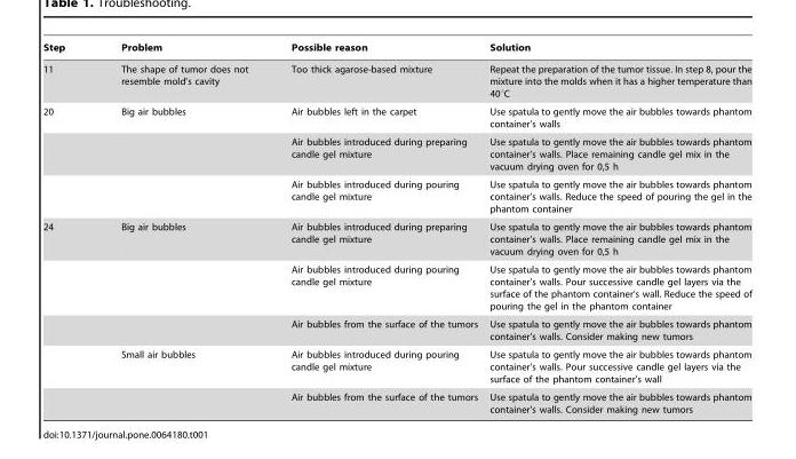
<table><thead><tr><td>Step</td><td>Problem</td><td>Possible reason</td><td>Solution</td></tr></thead><tbody><tr><td>11</td><td>The shape of tumor does not resemble mold’s cavity</td><td>Too thick agarose-based mixture</td><td>Repeat the preparation of the tumor tissue. In step 8, pour the mixture into the molds when it has a higher temperature than 40°C</td></tr><tr><td rowspan="3">20</td><td>Big air bubbles</td><td>Air bubbles left in the carpet</td><td>Use spatula to gently move the air bubbles towards phantom container’s walls</td></tr><tr><td></td><td>Air bubbles introduced during preparing candle gel mixture</td><td>Use spatula to gently move the air bubbles towards phantom container’s walls. Place remaining candle gel mix in the vacuum drying oven for 0,5 h</td></tr><tr><td></td><td>Air bubbles introduced during pouring candle gel mixture</td><td>Use spatula to gently move the air bubbles towards phantom container’s walls. Reduce the speed of pouring the gel in the phantom container</td></tr><tr><td rowspan="5">24</td><td>Big air bubbles</td><td>Air bubbles introduced during preparing candle gel mixture</td><td>Use spatula to gently move the air bubbles towards phantom container’s walls. Place remaining candle gel mix in the vacuum drying oven for 0,5 h</td></tr><tr><td></td><td>Air bubbles introduced during pouring candle gel mixture</td><td>Use spatula to gently move the air bubbles towards phantom container’s walls. Pour successive candle gel layers via the surface of the phantom container’s wall. Reduce the speed of pouring the gel in the phantom container</td></tr><tr><td></td><td>Air bubbles from the surface of the tumors</td><td>Use spatula to gently move the air bubbles towards phantom container’s walls. Consider making new tumors</td></tr><tr><td>Small air bubbles</td><td>Air bubbles introduced during pouring candle gel mixture</td><td>Use spatula to gently move the air bubbles towards phantom container’s walls. Pour successive candle gel layers via the surface of the phantom container’s wall</td></tr><tr><td></td><td>Air bubbles from the surface of the tumors</td><td>Use spatula to gently move the air bubbles towards phantom container’s walls. Consider making new tumors</td></tr></tbody></table>